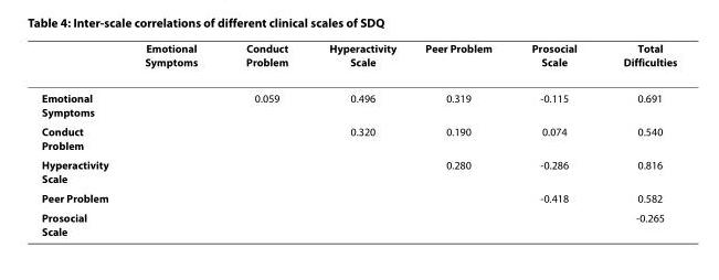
<table><thead><tr><td></td><td>Emotional Symptoms</td><td>Conduct Problem</td><td>Hyperactivity Scale</td><td>Peer Problem</td><td>Prosocial Scale</td><td>Total Difficulties</td></tr></thead><tbody><tr><td>Emotional Symptoms</td><td></td><td>0.059</td><td>0.496</td><td>0.319</td><td>-0.115</td><td>0.691</td></tr><tr><td>Conduct Problem</td><td></td><td></td><td>0.320</td><td>0.190</td><td>0.074</td><td>0.540</td></tr><tr><td>Hyperactivity Scale</td><td></td><td></td><td></td><td>0.280</td><td>-0.286</td><td>0.816</td></tr><tr><td>Peer Problem</td><td></td><td></td><td></td><td></td><td>-0.418</td><td>0.582</td></tr><tr><td>Prosocial Scale</td><td></td><td></td><td></td><td></td><td></td><td>-0.265</td></tr></tbody></table>